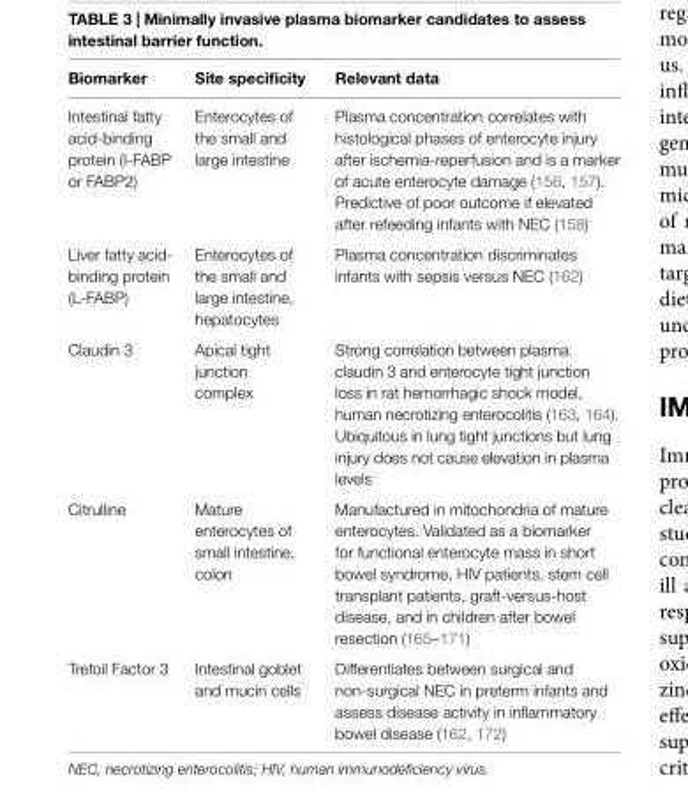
<table><thead><tr><td>Biomarker</td><td>Site specificity</td><td>Relevant data</td></tr></thead><tbody><tr><td>Intestinal fatty acid-binding protein (I-FABP or FABP2)</td><td>Enterocytes of the small and large intestine</td><td>Plasma concentration correlates with histological phases of enterocyte injury after ischemia-reperfusion and is a marker of acute enterocyte damage (156, 157). Predictive of poor outcome if elevated after refeeding infants with NEC (158)</td></tr><tr><td>Liver fatty acid- binding protein (L-FABP)</td><td>Enterocytes of the small and large intestine, hepatocytes</td><td>Plasma concentration discriminates infants with sepsis versus NEC (162)</td></tr><tr><td>Claudin 3</td><td>Apical tight junction complex</td><td>Strong correlation between plasma claudin 3 and enterocyte tight junction loss in rat hemorrhagic shock model, human necrotizing enterocolitis (163, 164). Ubiquitous in lung tight junctions but lung injury does not cause elevation in plasma levels</td></tr><tr><td>Citrulline</td><td>Mature enterocytes of small intestine, colon</td><td>Manufactured in mitochondria of mature enterocytes. Validated as a biomarker for functional enterocyte mass in short bowel syndrome, HIV patients, stem cell transplant patients, graft-versus-host disease, and in children after bowel resection (165–171)</td></tr><tr><td>Trefoil Factor 3</td><td>Intestinal goblet and mucin cells</td><td>Differentiates between surgical and non-surgical NEC in preterm infants and assess disease activity in inflammatory bowel disease (162, 172)</td></tr></tbody></table>